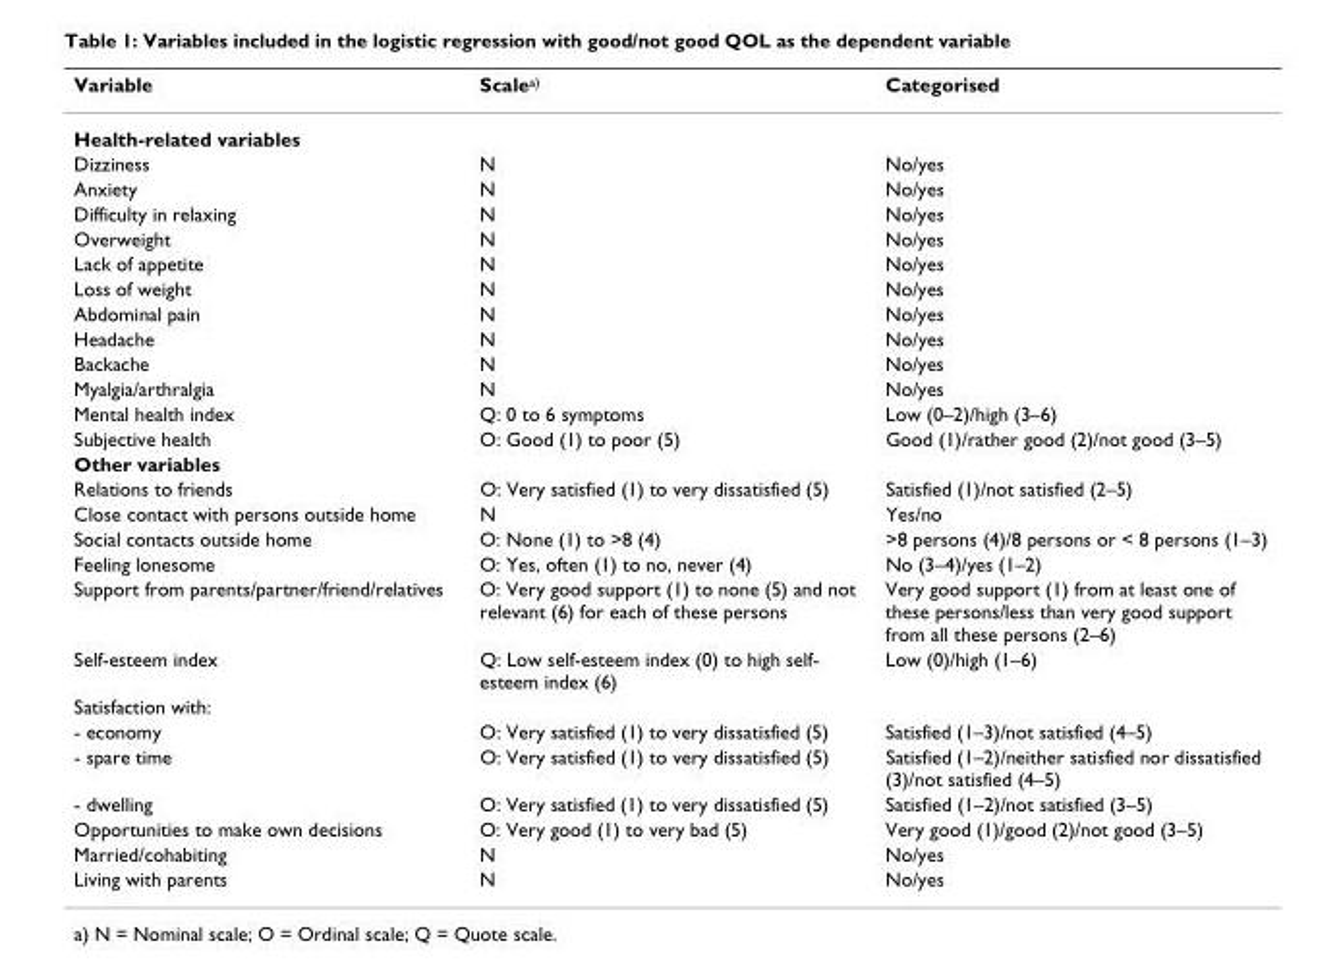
<table><thead><tr><td>Variable</td><td>Scale<sup>a)</sup></td><td>Categorised</td></tr></thead><tbody><tr><td colspan="3">Health-related variables</td></tr><tr><td>Dizziness</td><td>N</td><td>No/yes</td></tr><tr><td>Anxiety</td><td>N</td><td>No/yes</td></tr><tr><td>Difficulty in relaxing</td><td>N</td><td>No/yes</td></tr><tr><td>Overweight</td><td>N</td><td>No/yes</td></tr><tr><td>Lack of appetite</td><td>N</td><td>No/yes</td></tr><tr><td>Loss of weight</td><td>N</td><td>No/yes</td></tr><tr><td>Abdominal pain</td><td>N</td><td>No/yes</td></tr><tr><td>Headache</td><td>N</td><td>No/yes</td></tr><tr><td>Backache</td><td>N</td><td>No/yes</td></tr><tr><td>Myalgia/arthralgia</td><td>N</td><td>No/yes</td></tr><tr><td>Mental health index</td><td>Q: 0 to 6 symptoms</td><td>Low (0–2)/high (3–6)</td></tr><tr><td>Subjective health</td><td>O: Good (1) to poor (5)</td><td>Good (1)/rather good (2)/not good (3–5)</td></tr><tr><td colspan="3">Other variables</td></tr><tr><td>Relations to friends</td><td>O: Very satisfied (1) to very dissatisfied (5)</td><td>Satisfied (1)/not satisfied (2–5)</td></tr><tr><td>Close contact with persons outside home</td><td>N</td><td>Yes/no</td></tr><tr><td>Social contacts outside home</td><td>O: None (1) to &gt;8 (4)</td><td>&gt;8 persons (4)/8 persons or &lt; 8 persons (1–3)</td></tr><tr><td>Feeling lonesome</td><td>O: Yes, often (1) to no, never (4)</td><td>No (3–4)/yes (1–2)</td></tr><tr><td>Support from parents/partner/friend/relatives</td><td>O: Very good support (1) to none (5) and not relevant (6) for each of these persons</td><td>Very good support (1) from at least one of these persons/less than very good support from all these persons (2–6)</td></tr><tr><td>Self-esteem index</td><td>Q: Low self-esteem index (0) to high self- esteem index (6)</td><td>Low (0)/high (1–6)</td></tr><tr><td colspan="3">Satisfaction with:</td></tr><tr><td>- economy</td><td>O: Very satisfied (1) to very dissatisfied (5)</td><td>Satisfied (1–3)/not satisfied (4–5)</td></tr><tr><td>- spare time</td><td>O: Very satisfied (1) to very dissatisfied (5)</td><td>Satisfied (1–2)/neither satisfied nor dissatisfied (3)/not satisfied (4–5)</td></tr><tr><td>- dwelling</td><td>O: Very satisfied (1) to very dissatisfied (5)</td><td>Satisfied (1–2)/not satisfied (3–5)</td></tr><tr><td>Opportunities to make own decisions</td><td>O: Very good (1) to very bad (5)</td><td>Very good (1)/good (2)/not good (3–5)</td></tr><tr><td>Married/cohabiting</td><td>N</td><td>No/yes</td></tr><tr><td>Living with parents</td><td>N</td><td>No/yes</td></tr></tbody></table>